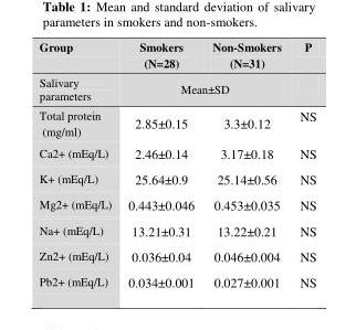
<table><thead><tr><td rowspan="2">Group Salivary parameters</td><td>Smokers (N=28)</td><td>Non-Smokers (N=31)</td><td rowspan="2">P</td></tr><tr><td colspan="2">Mean±SD</td></tr></thead><tbody><tr><td>Total protein (mg/ml)</td><td>2.85±0.15</td><td>3.3±0.12</td><td>NS</td></tr><tr><td>Ca2+ (mEq/L)</td><td>2.46±0.14</td><td>3.17±0.18</td><td>NS</td></tr><tr><td>K+ (mEq/L)</td><td>25.64±0.9</td><td>25.14±0.56</td><td>NS</td></tr><tr><td>Mg2+ (mEq/L)</td><td>0.443±0.046</td><td>0.453±0.035</td><td>NS</td></tr><tr><td>Na+ (mEq/L)</td><td>13.21±0.31</td><td>13.22±0.21</td><td>NS</td></tr><tr><td>Zn2+ (mEq/L)</td><td>0.036±0.04</td><td>0.046±0.004</td><td>NS</td></tr><tr><td>Pb2+ (mEq/L)</td><td>0.034±0.001</td><td>0.027±0.001</td><td>NS</td></tr></tbody></table>